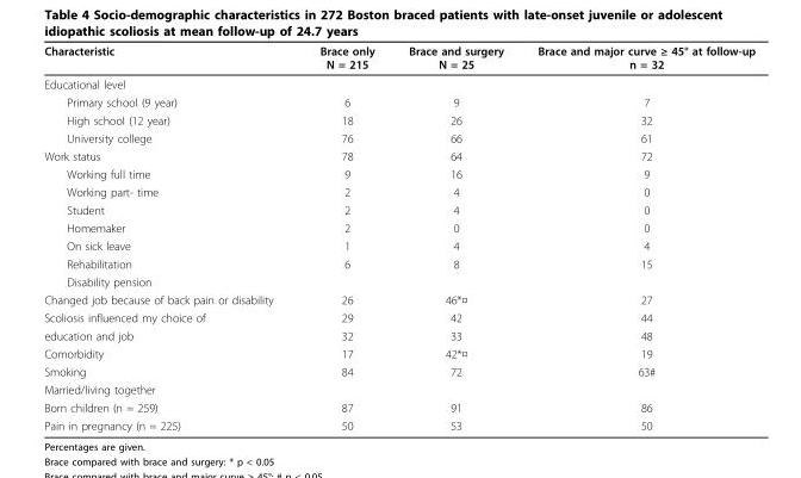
<table><thead><tr><td>Characteristic</td><td>Brace only N = 215</td><td>Brace and surgery N = 25</td><td>Brace and major curve ≥ 45° at follow-up n = 32</td></tr></thead><tbody><tr><td colspan="4">Educational level</td></tr><tr><td>Primary school (9 year)</td><td>6</td><td>9</td><td>7</td></tr><tr><td>High school (12 year)</td><td>18</td><td>26</td><td>32</td></tr><tr><td>University college</td><td>76</td><td>66</td><td>61</td></tr><tr><td>Work status</td><td>78</td><td>64</td><td>72</td></tr><tr><td>Working full time</td><td>9</td><td>16</td><td>9</td></tr><tr><td>Working part- time</td><td>2</td><td>4</td><td>0</td></tr><tr><td>Student</td><td>2</td><td>4</td><td>0</td></tr><tr><td>Homemaker</td><td>2</td><td>0</td><td>0</td></tr><tr><td>On sick leave</td><td>1</td><td>4</td><td>4</td></tr><tr><td>Rehabilitation</td><td>6</td><td>8</td><td>15</td></tr><tr><td colspan="4">Disability pension</td></tr><tr><td>Changed job because of back pain or disability</td><td>26</td><td>46*¤</td><td>27</td></tr><tr><td>Scoliosis influenced my choice of</td><td>29</td><td>42</td><td>44</td></tr><tr><td>education and job</td><td>32</td><td>33</td><td>48</td></tr><tr><td>Comorbidity</td><td>17</td><td>42*¤</td><td>19</td></tr><tr><td>Smoking</td><td>84</td><td>72</td><td>63#</td></tr><tr><td colspan="4">Married/living together</td></tr><tr><td>Born children (n = 259)</td><td>87</td><td>91</td><td>86</td></tr><tr><td>Pain in pregnancy (n = 225)</td><td>50</td><td>53</td><td>50</td></tr></tbody></table>